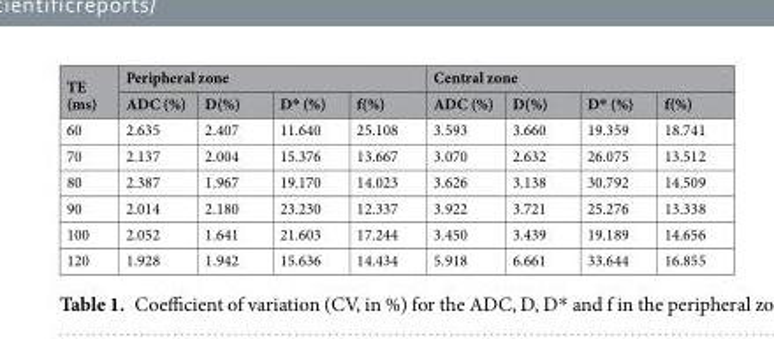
<table><thead><tr><td rowspan="2">TE (ms)</td><td colspan="4">Peripheral zone</td><td colspan="4">Central zone</td></tr><tr><td>ADC (%)</td><td>D(%)</td><td>D* (%)</td><td>f(%)</td><td>ADC (%)</td><td>D(%)</td><td>D* (%)</td><td>f(%)</td></tr></thead><tbody><tr><td>60</td><td>2.635</td><td>2.407</td><td>11.640</td><td>25.108</td><td>3.593</td><td>3.660</td><td>19.359</td><td>18.741</td></tr><tr><td>70</td><td>2.137</td><td>2.004</td><td>15.376</td><td>13.667</td><td>3.070</td><td>2.632</td><td>26.075</td><td>13.512</td></tr><tr><td>80</td><td>2.387</td><td>1.967</td><td>19.170</td><td>14.023</td><td>3.626</td><td>3.138</td><td>30.792</td><td>14.509</td></tr><tr><td>90</td><td>2.014</td><td>2.180</td><td>23.230</td><td>12.337</td><td>3.922</td><td>3.721</td><td>25.276</td><td>13.338</td></tr><tr><td>100</td><td>2.052</td><td>1.641</td><td>21.603</td><td>17.244</td><td>3.450</td><td>3.439</td><td>19.189</td><td>14.656</td></tr><tr><td>120</td><td>1.928</td><td>1.942</td><td>15.636</td><td>14.434</td><td>5.918</td><td>6.661</td><td>33.644</td><td>16.855</td></tr></tbody></table>